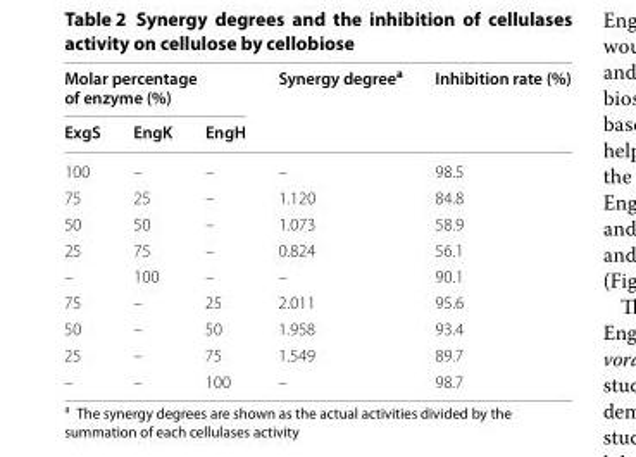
<table><thead><tr><td colspan="3">Molar percentage of enzyme (%)</td><td rowspan="2">Synergy degree<sup>a</sup></td><td rowspan="2">Inhibition rate (%)</td></tr><tr><td>ExgS</td><td>EngK</td><td>EngH</td></tr></thead><tbody><tr><td>100</td><td>–</td><td>–</td><td>–</td><td>98.5</td></tr><tr><td>75</td><td>25</td><td>–</td><td>1.120</td><td>84.8</td></tr><tr><td>50</td><td>50</td><td>–</td><td>1.073</td><td>58.9</td></tr><tr><td>25</td><td>75</td><td>–</td><td>0.824</td><td>56.1</td></tr><tr><td>–</td><td>100</td><td>–</td><td>–</td><td>90.1</td></tr><tr><td>75</td><td>–</td><td>25</td><td>2.011</td><td>95.6</td></tr><tr><td>50</td><td>–</td><td>50</td><td>1.958</td><td>93.4</td></tr><tr><td>25</td><td>–</td><td>75</td><td>1.549</td><td>89.7</td></tr><tr><td>–</td><td>–</td><td>100</td><td>–</td><td>98.7</td></tr></tbody></table>